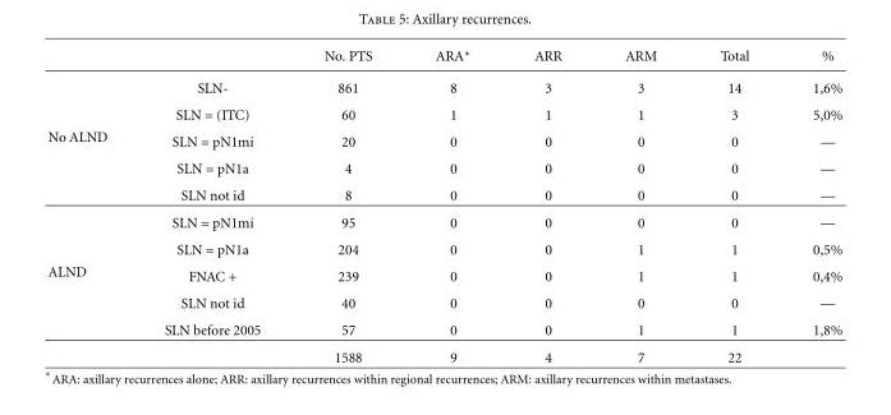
<table><thead><tr><td></td><td></td><td>No. PTS</td><td>ARA∗</td><td>ARR</td><td>ARM</td><td>Total</td><td>%</td></tr></thead><tbody><tr><td rowspan="5">No ALND</td><td>SLN-</td><td>861</td><td>8</td><td>3</td><td>3</td><td>14</td><td>1,6%</td></tr><tr><td>SLN = (ITC)</td><td>60</td><td>1</td><td>1</td><td>1</td><td>3</td><td>5,0%</td></tr><tr><td>SLN = pN1mi</td><td>20</td><td>0</td><td>0</td><td>0</td><td>0</td><td>—</td></tr><tr><td>SLN = pN1a</td><td>4</td><td>0</td><td>0</td><td>0</td><td>0</td><td>—</td></tr><tr><td>SLN not id</td><td>8</td><td>0</td><td>0</td><td>0</td><td>0</td><td>—</td></tr><tr><td rowspan="6">ALND</td><td>SLN = pN1mi</td><td>95</td><td>0</td><td>0</td><td>0</td><td>0</td><td>—</td></tr><tr><td>SLN = pN1a</td><td>204</td><td>0</td><td>0</td><td>1</td><td>1</td><td>0,5%</td></tr><tr><td>FNAC +</td><td>239</td><td>0</td><td>0</td><td>1</td><td>1</td><td>0,4%</td></tr><tr><td>SLN not id</td><td>40</td><td>0</td><td>0</td><td>0</td><td>0</td><td>—</td></tr><tr><td>SLN before 2005</td><td>57</td><td>0</td><td>0</td><td>1</td><td>1</td><td>1,8%</td></tr><tr><td></td><td>1588</td><td>9</td><td>4</td><td>7</td><td>22</td><td></td></tr></tbody></table>